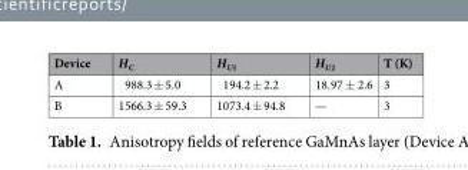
<table><thead><tr><td>Device</td><td>H<sub>C</sub></td><td>H<sub>U1</sub></td><td>H<sub>U2</sub></td><td>T (K)</td></tr></thead><tbody><tr><td>A</td><td>988.3 ± 5.0</td><td>194.2 ± 2.2</td><td>18.97 ± 2.6</td><td>3</td></tr><tr><td>B</td><td>1566.3 ± 59.3</td><td>1073.4 ± 94.8</td><td>—</td><td>3</td></tr></tbody></table>